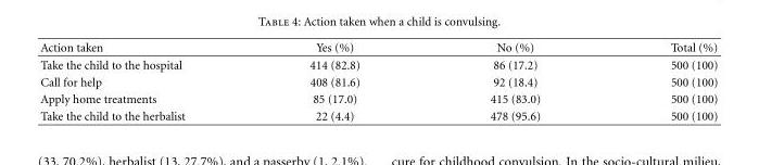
<table><thead><tr><td>Action taken</td><td>Yes (%)</td><td>No (%)</td><td>Total (%)</td></tr></thead><tbody><tr><td>Take the child to the hospital</td><td>414 (82.8)</td><td>86 (17.2)</td><td>500 (100)</td></tr><tr><td>Call for help</td><td>408 (81.6)</td><td>92 (18.4)</td><td>500 (100)</td></tr><tr><td>Apply home treatments</td><td>85 (17.0)</td><td>415 (83.0)</td><td>500 (100)</td></tr><tr><td>Take the child to the herbalist</td><td>22 (4.4)</td><td>478 (95.6)</td><td>500 (100)</td></tr></tbody></table>